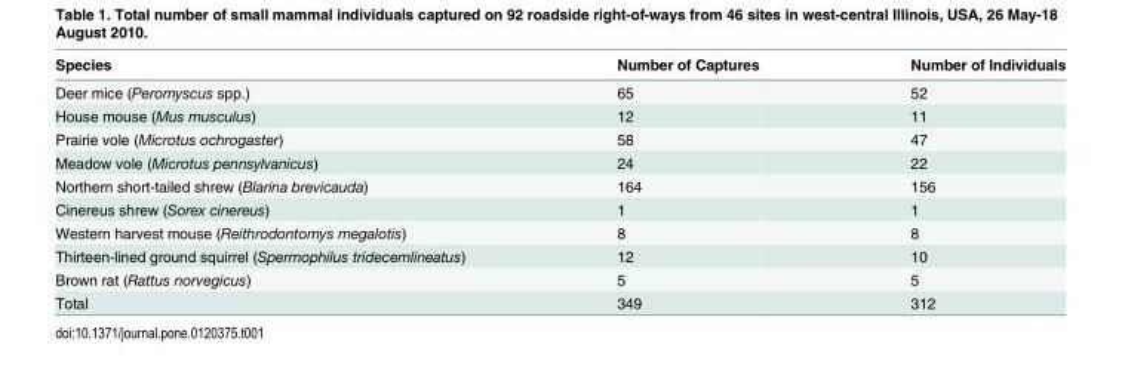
<table><thead><tr><td>Species</td><td>Number of Captures</td><td>Number of Individuals</td></tr></thead><tbody><tr><td>Deer mice (Peromyscus spp.)</td><td>65</td><td>52</td></tr><tr><td>House mouse (Mus musculus)</td><td>12</td><td>11</td></tr><tr><td>Prairie vole (Microtus ochrogaster)</td><td>58</td><td>47</td></tr><tr><td>Meadow vole (Microtus pennsylvanicus)</td><td>24</td><td>22</td></tr><tr><td>Northern short-tailed shrew (Blarina brevicauda)</td><td>164</td><td>156</td></tr><tr><td>Cinereus shrew (Sorex cinereus)</td><td>1</td><td>1</td></tr><tr><td>Western harvest mouse (Reithrodontomys megalotis)</td><td>8</td><td>8</td></tr><tr><td>Thirteen-lined ground squirrel (Spermophilus tridecemlineatus)</td><td>12</td><td>10</td></tr><tr><td>Brown rat (Rattus norvegicus)</td><td>5</td><td>5</td></tr><tr><td>Total</td><td>349</td><td>312</td></tr></tbody></table>